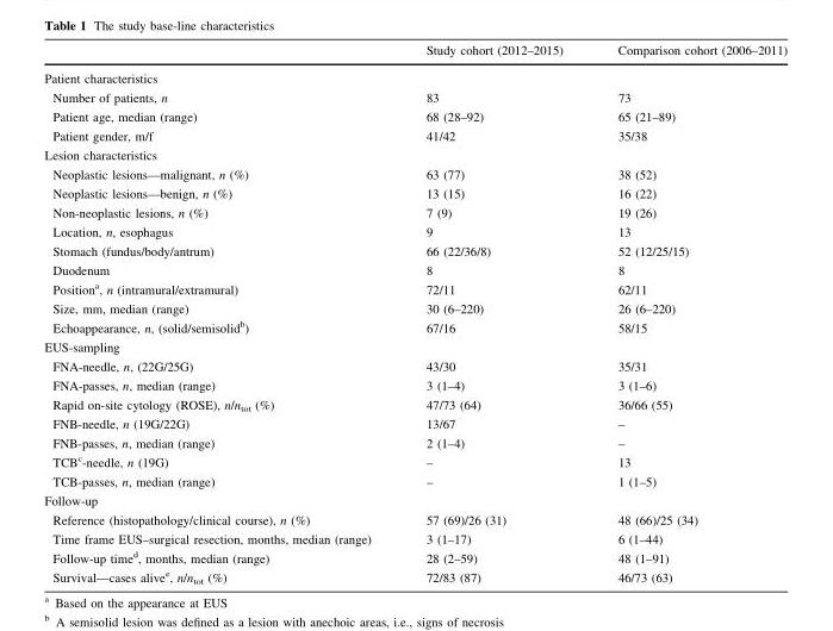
<table><thead><tr><td></td><td>Study cohort (2012–2015)</td><td>Comparison cohort (2006–2011)</td></tr></thead><tbody><tr><td colspan="3">Patient characteristics</td></tr><tr><td>Number of patients, n</td><td>83</td><td>73</td></tr><tr><td>Patient age, median (range)</td><td>68 (28–92)</td><td>65 (21–89)</td></tr><tr><td>Patient gender, m/f</td><td>41/42</td><td>35/38</td></tr><tr><td colspan="3">Lesion characteristics</td></tr><tr><td>Neoplastic lesions—malignant, n (%)</td><td>63 (77)</td><td>38 (52)</td></tr><tr><td>Neoplastic lesions—benign, n (%)</td><td>13 (15)</td><td>16 (22)</td></tr><tr><td>Non-neoplastic lesions, n (%)</td><td>7 (9)</td><td>19 (26)</td></tr><tr><td>Location, n, esophagus</td><td>9</td><td>13</td></tr><tr><td>Stomach (fundus/body/antrum)</td><td>66 (22/36/8)</td><td>52 (12/25/15)</td></tr><tr><td>Duodenum</td><td>8</td><td>8</td></tr><tr><td>Position<sup>a</sup>, n (intramural/extramural)</td><td>72/11</td><td>62/11</td></tr><tr><td>Size, mm, median (range)</td><td>30 (6–220)</td><td>26 (6–220)</td></tr><tr><td>Echoappearance, n, (solid/semisolid<sup>b</sup>)</td><td>67/16</td><td>58/15</td></tr><tr><td colspan="3">EUS-sampling</td></tr><tr><td>FNA-needle, n, (22G/25G)</td><td>43/30</td><td>35/31</td></tr><tr><td>FNA-passes, n, median (range)</td><td>3 (1–4)</td><td>3 (1–6)</td></tr><tr><td>Rapid on-site cytology (ROSE), n/n<sub>tot</sub> (%)</td><td>47/73 (64)</td><td>36/66 (55)</td></tr><tr><td>FNB-needle, n (19G/22G)</td><td>13/67</td><td>–</td></tr><tr><td>FNB-passes, n, median (range)</td><td>2 (1–4)</td><td>–</td></tr><tr><td>TCB<sup>c</sup>-needle, n (19G)</td><td>–</td><td>13</td></tr><tr><td>TCB-passes, n, median (range)</td><td>–</td><td>1 (1–5)</td></tr><tr><td colspan="3">Follow-up</td></tr><tr><td>Reference (histopathology/clinical course), n (%)</td><td>57 (69)/26 (31)</td><td>48 (66)/25 (34)</td></tr><tr><td>Time frame EUS–surgical resection, months, median (range)</td><td>3 (1–17)</td><td>6 (1–44)</td></tr><tr><td>Follow-up time<sup>d</sup>, months, median (range)</td><td>28 (2–59)</td><td>48 (1–91)</td></tr><tr><td>Survival—cases alive<sup>e</sup>, n/n<sub>tot</sub> (%)</td><td>72/83 (87)</td><td>46/73 (63)</td></tr></tbody></table>